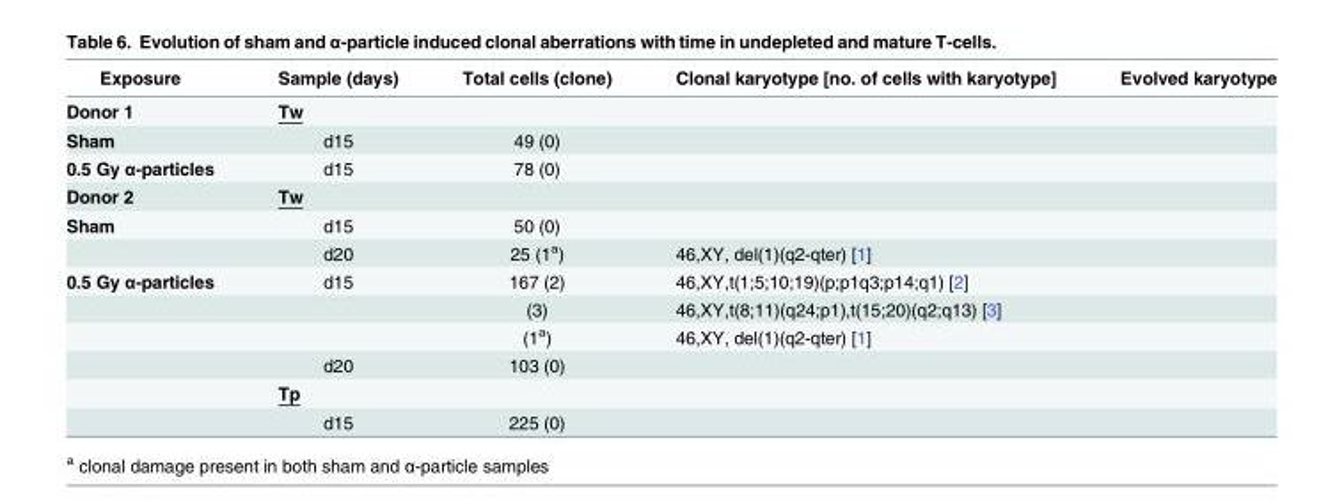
<table><thead><tr><td>Exposure</td><td>Sample (days)</td><td>Total cells (clone)</td><td>Clonal karyotype [no. of cells with karyotype]</td><td>Evolved karyotype</td></tr></thead><tbody><tr><td>Donor 1</td><td>Tw</td><td></td><td></td><td></td></tr><tr><td>Sham</td><td>d15</td><td>49 (0)</td><td></td><td></td></tr><tr><td>0.5 Gy α-particles</td><td>d15</td><td>78 (0)</td><td></td><td></td></tr><tr><td>Donor 2</td><td>Tw</td><td></td><td></td><td></td></tr><tr><td rowspan="2">Sham</td><td>d15</td><td>50 (0)</td><td></td><td></td></tr><tr><td>d20</td><td>25 (1<sup>a</sup>)</td><td>46,XY, del(1)(q2-qter) [1]</td><td></td></tr><tr><td rowspan="6">0.5 Gy α-particles</td><td>d15</td><td>167 (2)</td><td>46,XY,t(1;5;10;19)(p;p1q3;p14;q1) [2]</td><td></td></tr><tr><td></td><td>(3)</td><td>46,XY,t(8;11)(q24;p1),t(15;20)(q2;q13) [3]</td><td></td></tr><tr><td></td><td>(1<sup>a</sup>)</td><td>46,XY, del(1)(q2-qter) [1]</td><td></td></tr><tr><td>d20</td><td>103 (0)</td><td></td><td></td></tr><tr><td>Tp</td><td></td><td></td><td></td></tr><tr><td>d15</td><td>225 (0)</td><td></td><td></td></tr></tbody></table>